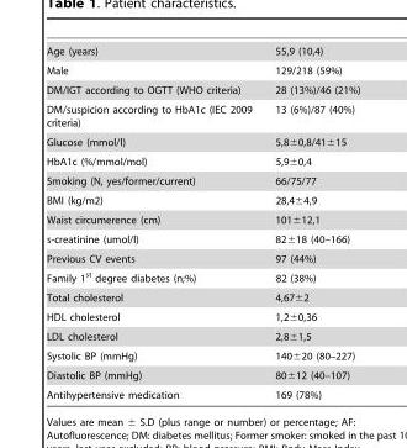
<table><tbody><tr><td>Age (years)</td><td>55,9 (10,4)</td></tr><tr><td>Male</td><td>129/218 (59%)</td></tr><tr><td>DM/IGT according to OGTT (WHO criteria)</td><td>28 (13%)/46 (21%)</td></tr><tr><td>DM/suspicion according to HbA1c (IEC 2009 criteria)</td><td>13 (6%)/87 (40%)</td></tr><tr><td>Glucose (mmol/l)</td><td>5,8±0,8/41±15</td></tr><tr><td>HbA1c (%/mmol/mol)</td><td>5,9±0,4</td></tr><tr><td>Smoking (N, yes/former/current)</td><td>66/75/77</td></tr><tr><td>BMI (kg/m2)</td><td>28,4±4,9</td></tr><tr><td>Waist circumerence (cm)</td><td>101±12,1</td></tr><tr><td>s-creatinine (umol/l)</td><td>82±18 (40–166)</td></tr><tr><td>Previous CV events</td><td>97 (44%)</td></tr><tr><td>Family 1<sup>st</sup> degree diabetes (n;%)</td><td>82 (38%)</td></tr><tr><td>Total cholesterol</td><td>4,67±2</td></tr><tr><td>HDL cholesterol</td><td>1,2±0,36</td></tr><tr><td>LDL cholesterol</td><td>2,8±1,5</td></tr><tr><td>Systolic BP (mmHg)</td><td>140±20 (80–227)</td></tr><tr><td>Diastolic BP (mmHg)</td><td>80±12 (40–107)</td></tr><tr><td>Antihypertensive medication</td><td>169 (78%)</td></tr></tbody></table>